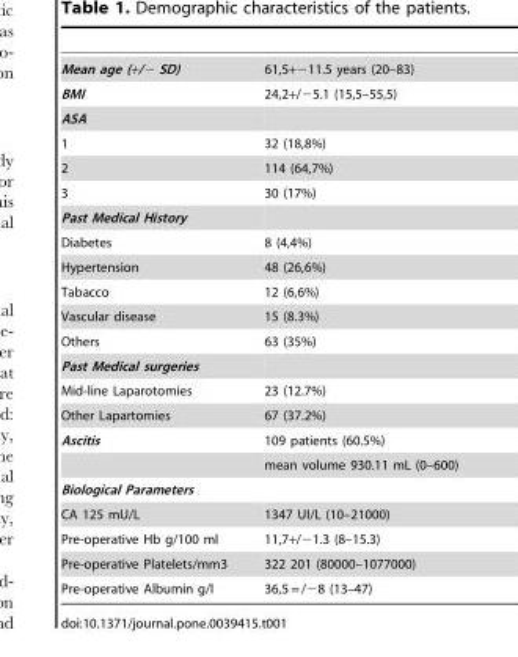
<table><tbody><tr><td>Mean age (+/− SD)</td><td>61,5+−11.5 years (20–83)</td></tr><tr><td>BMI</td><td>24,2+/−5.1 (15,5–55,5)</td></tr><tr><td colspan="2">ASA</td></tr><tr><td>1</td><td>32 (18,8%)</td></tr><tr><td>2</td><td>114 (64,7%)</td></tr><tr><td>3</td><td>30 (17%)</td></tr><tr><td colspan="2">Past Medical History</td></tr><tr><td>Diabetes</td><td>8 (4,4%)</td></tr><tr><td>Hypertension</td><td>48 (26,6%)</td></tr><tr><td>Tabacco</td><td>12 (6,6%)</td></tr><tr><td>Vascular disease</td><td>15 (8.3%)</td></tr><tr><td>Others</td><td>63 (35%)</td></tr><tr><td colspan="2">Past Medical surgeries</td></tr><tr><td>Mid-line Laparotomies</td><td>23 (12.7%)</td></tr><tr><td>Other Lapartomies</td><td>67 (37.2%)</td></tr><tr><td rowspan="2">Ascitis</td><td>109 patients (60.5%)</td></tr><tr><td>mean volume 930.11 mL (0–600)</td></tr><tr><td colspan="2">Biological Parameters</td></tr><tr><td>CA 125 mU/L</td><td>1347 UI/L (10–21000)</td></tr><tr><td>Pre-operative Hb g/100 ml</td><td>11,7+/−1.3 (8–15.3)</td></tr><tr><td>Pre-operative Platelets/mm3</td><td>322 201 (80000–1077000)</td></tr><tr><td>Pre-operative Albumin g/l</td><td>36,5 = /−8 (13–47)</td></tr></tbody></table>